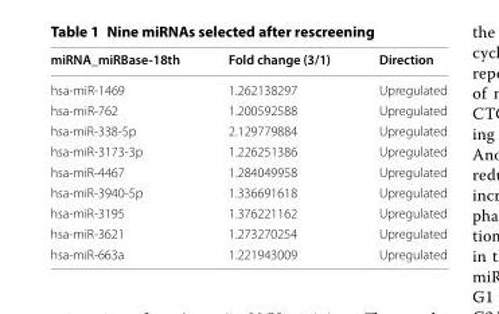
<table><thead><tr><td>miRNA_miRBase‑18th</td><td>Fold change (3/1)</td><td>Direction</td></tr></thead><tbody><tr><td>hsa-miR-1469</td><td>1.262138297</td><td>Upregulated</td></tr><tr><td>hsa-miR-762</td><td>1.200592588</td><td>Upregulated</td></tr><tr><td>hsa-miR-338-5p</td><td>2.129779884</td><td>Upregulated</td></tr><tr><td>hsa-miR-3173-3p</td><td>1.226251386</td><td>Upregulated</td></tr><tr><td>hsa-miR-4467</td><td>1.284049958</td><td>Upregulated</td></tr><tr><td>hsa-miR-3940-5p</td><td>1.336691618</td><td>Upregulated</td></tr><tr><td>hsa-miR-3195</td><td>1.376221162</td><td>Upregulated</td></tr><tr><td>hsa-miR-3621</td><td>1.273270254</td><td>Upregulated</td></tr><tr><td>hsa-miR-663a</td><td>1.221943009</td><td>Upregulated</td></tr></tbody></table>